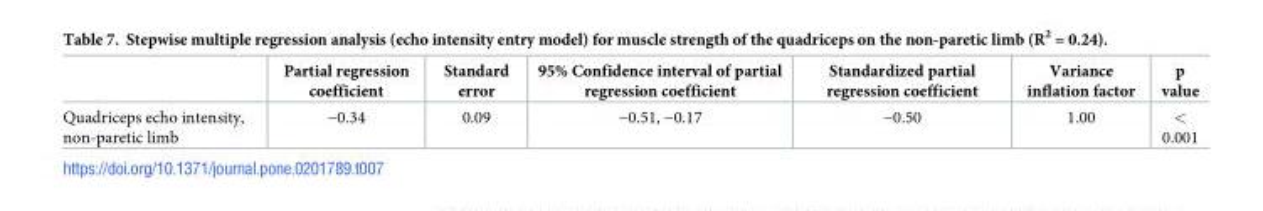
<table><thead><tr><td></td><td>Partial regression coefficient</td><td>Standard error</td><td>95% Confidence interval of partial regression coefficient</td><td>Standardized partial regression coefficient</td><td>Variance inflation factor</td><td>p value</td></tr></thead><tbody><tr><td>Quadriceps echo intensity, non-paretic limb</td><td>−0.34</td><td>0.09</td><td>−0.51, −0.17</td><td>−0.50</td><td>1.00</td><td>&lt; 0.001</td></tr></tbody></table>